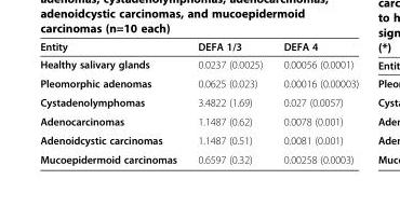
<table><thead><tr><td>Entity</td><td>DEFA 1/3</td><td>DEFA 4</td></tr></thead><tbody><tr><td>Healthy salivary glands</td><td>0.0237 (0.0025)</td><td>0.00056 (0.0001)</td></tr><tr><td>Pleomorphic adenomas</td><td>0.0625 (0.023)</td><td>0.00016 (0.00003)</td></tr><tr><td>Cystadenolymphomas</td><td>3.4822 (1.69)</td><td>0.027 (0.0057)</td></tr><tr><td>Adenocarcinomas</td><td>1.1487 (0.62)</td><td>0.0078 (0.001)</td></tr><tr><td>Adenoidcystic carcinomas</td><td>1.1487 (0.51)</td><td>0.0081 (0.001)</td></tr><tr><td>Mucoepidermoid carcinomas</td><td>0.6597 (0.32)</td><td>0.00258 (0.0003)</td></tr></tbody></table>